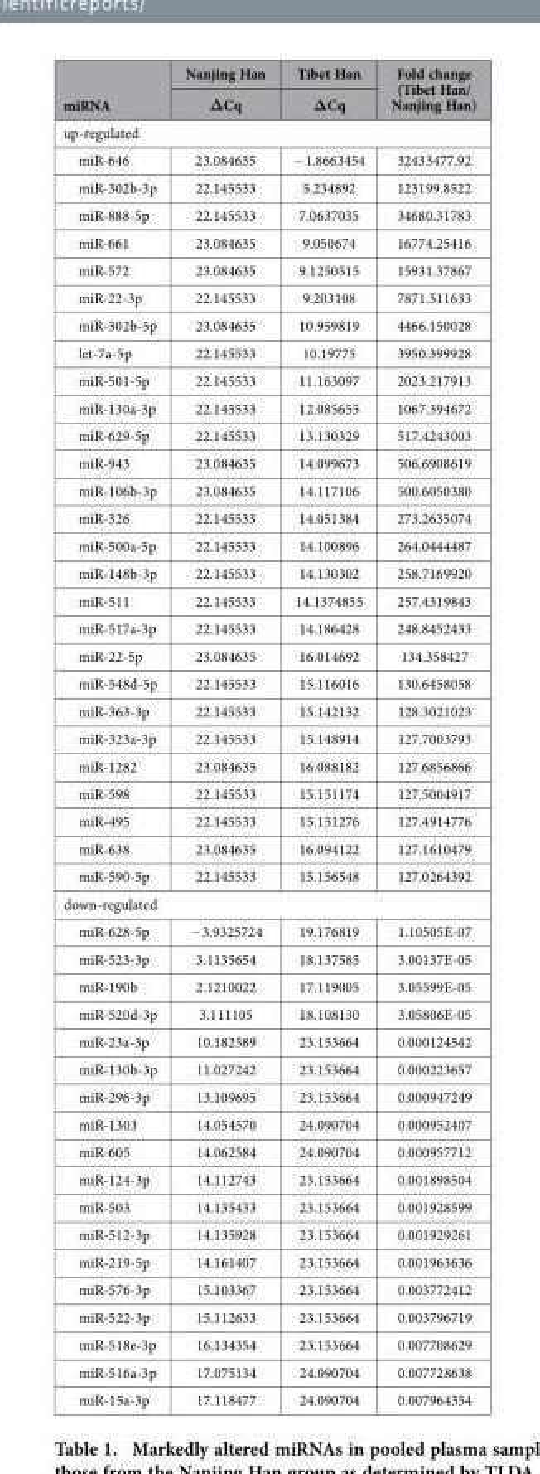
<table><thead><tr><td rowspan="2">miRNA</td><td rowspan="2">Nanjing Han ΔCq</td><td rowspan="2">Tibet Han ΔCq</td><td rowspan="2">Fold change (Tibet Han/ Nanjing Han)</td></tr><tr></tr></thead><tbody><tr><td colspan="4">up-regulated</td></tr><tr><td>miR-646</td><td>23.084635</td><td>− 1.8663454</td><td>32433477.92</td></tr><tr><td>miR-302b-3p</td><td>22.145533</td><td>5.234892</td><td>123199.8522</td></tr><tr><td>miR-888-5p</td><td>22.145533</td><td>7.0637035</td><td>34680.31783</td></tr><tr><td>miR-661</td><td>23.084635</td><td>9.050674</td><td>16774.25416</td></tr><tr><td>miR-572</td><td>23.084635</td><td>9.1250515</td><td>15931.37867</td></tr><tr><td>miR-22-3p</td><td>22.145533</td><td>9.203108</td><td>7871.511633</td></tr><tr><td>miR-302b-5p</td><td>23.084635</td><td>10.959819</td><td>4466.150028</td></tr><tr><td>let-7a-5p</td><td>22.145533</td><td>10.19775</td><td>3950.399928</td></tr><tr><td>miR-501-5p</td><td>22.145533</td><td>11.163097</td><td>2023.217913</td></tr><tr><td>miR-130a-3p</td><td>22.145533</td><td>12.085655</td><td>1067.394672</td></tr><tr><td>miR-629-5p</td><td>22.145533</td><td>13.130329</td><td>517.4243003</td></tr><tr><td>miR-943</td><td>23.084635</td><td>14.099673</td><td>506.6908619</td></tr><tr><td>miR-106b-3p</td><td>23.084635</td><td>14.117106</td><td>500.6050380</td></tr><tr><td>miR-326</td><td>22.145533</td><td>14.051384</td><td>273.2635074</td></tr><tr><td>miR-500a-5p</td><td>22.145533</td><td>14.100896</td><td>264.0444487</td></tr><tr><td>miR-148b-3p</td><td>22.145533</td><td>14.130302</td><td>258.7169920</td></tr><tr><td>miR-511</td><td>22.145533</td><td>14.1374855</td><td>257.4319843</td></tr><tr><td>miR-517a-3p</td><td>22.145533</td><td>14.186428</td><td>248.8452433</td></tr><tr><td>miR-22-5p</td><td>23.084635</td><td>16.014692</td><td>134.358427</td></tr><tr><td>miR-548d-5p</td><td>22.145533</td><td>15.116016</td><td>130.6458058</td></tr><tr><td>miR-363-3p</td><td>22.145533</td><td>15.142132</td><td>128.3021023</td></tr><tr><td>miR-323a-3p</td><td>22.145533</td><td>15.148914</td><td>127.7003793</td></tr><tr><td>miR-1282</td><td>23.084635</td><td>16.088182</td><td>127.6856866</td></tr><tr><td>miR-598</td><td>22.145533</td><td>15.151174</td><td>127.5004917</td></tr><tr><td>miR-495</td><td>22.145533</td><td>15.151276</td><td>127.4914776</td></tr><tr><td>miR-638</td><td>23.084635</td><td>16.094122</td><td>127.1610479</td></tr><tr><td>miR-590-5p</td><td>22.145533</td><td>15.156548</td><td>127.0264392</td></tr><tr><td colspan="4">down-regulated</td></tr><tr><td>miR-628-5p</td><td>− 3.9325724</td><td>19.176819</td><td>1.10505E-07</td></tr><tr><td>miR-523-3p</td><td>3.1135654</td><td>18.137585</td><td>3.00137E-05</td></tr><tr><td>miR-190b</td><td>2.1210022</td><td>17.119005</td><td>3.05599E-05</td></tr><tr><td>miR-520d-3p</td><td>3.111105</td><td>18.108130</td><td>3.05806E-05</td></tr><tr><td>miR-23a-3p</td><td>10.182589</td><td>23.153664</td><td>0.000124542</td></tr><tr><td>miR-130b-3p</td><td>11.027242</td><td>23.153664</td><td>0.000223657</td></tr><tr><td>miR-296-3p</td><td>13.109695</td><td>23.153664</td><td>0.000947249</td></tr><tr><td>miR-1303</td><td>14.054570</td><td>24.090704</td><td>0.000952407</td></tr><tr><td>miR-605</td><td>14.062584</td><td>24.090704</td><td>0.000957712</td></tr><tr><td>miR-124-3p</td><td>14.112743</td><td>23.153664</td><td>0.001898504</td></tr><tr><td>miR-503</td><td>14.135433</td><td>23.153664</td><td>0.001928599</td></tr><tr><td>miR-512-3p</td><td>14.135928</td><td>23.153664</td><td>0.001929261</td></tr><tr><td>miR-219-5p</td><td>14.161407</td><td>23.153664</td><td>0.001963636</td></tr><tr><td>miR-576-3p</td><td>15.103367</td><td>23.153664</td><td>0.003772412</td></tr><tr><td>miR-522-3p</td><td>15.112633</td><td>23.153664</td><td>0.003796719</td></tr><tr><td>miR-518e-3p</td><td>16.134354</td><td>23.153664</td><td>0.007708629</td></tr><tr><td>miR-516a-3p</td><td>17.075134</td><td>24.090704</td><td>0.007728638</td></tr><tr><td>miR-15a-3p</td><td>17.118477</td><td>24.090704</td><td>0.007964354</td></tr></tbody></table>